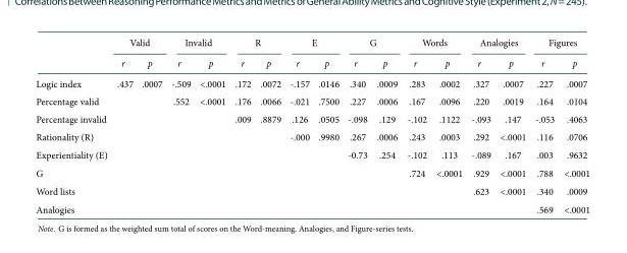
<table><thead><tr><td rowspan="2"></td><td colspan="2">Valid</td><td colspan="2">Invalid</td><td colspan="2">R</td><td colspan="2">E</td><td colspan="2">G</td><td colspan="2">Words</td><td colspan="2">Analogies</td><td colspan="2">Figures</td></tr><tr><td>r</td><td>p</td><td>r</td><td>p</td><td>r</td><td>p</td><td>r</td><td>p</td><td>r</td><td>p</td><td>r</td><td>p</td><td>r</td><td>p</td><td>r</td><td>p</td></tr></thead><tbody><tr><td>Logic index</td><td>.437</td><td>.0007</td><td>-.509</td><td>&lt;.0001</td><td>.172</td><td>.0072</td><td>-.157</td><td>.0146</td><td>.340</td><td>.0009</td><td>.283</td><td>.0002</td><td>.327</td><td>.0007</td><td>.227</td><td>.0007</td></tr><tr><td>Percentage valid</td><td></td><td></td><td>.552</td><td>&lt;.0001</td><td>.176</td><td>.0066</td><td>-.021</td><td>.7500</td><td>.227</td><td>.0006</td><td>.167</td><td>.0096</td><td>.220</td><td>.0019</td><td>.164</td><td>.0104</td></tr><tr><td>Percentage invalid</td><td></td><td></td><td></td><td></td><td>.009</td><td>.8879</td><td>.126</td><td>.0505</td><td>-.098</td><td>.129</td><td>-.102</td><td>.1122</td><td>-.093</td><td>.147</td><td>-.053</td><td>.4063</td></tr><tr><td>Rationality (R)</td><td></td><td></td><td></td><td></td><td></td><td></td><td>-.000</td><td>.9980</td><td>.267</td><td>.0006</td><td>.243</td><td>.0003</td><td>.292</td><td>&lt;.0001</td><td>.116</td><td>.0706</td></tr><tr><td>Experientiality (E)</td><td></td><td></td><td></td><td></td><td></td><td></td><td></td><td></td><td>-0.73</td><td>.254</td><td>-.102</td><td>.113</td><td>-.089</td><td>.167</td><td>.003</td><td>.9632</td></tr><tr><td>G</td><td></td><td></td><td></td><td></td><td></td><td></td><td></td><td></td><td></td><td></td><td>.724</td><td>&lt;.0001</td><td>.929</td><td>&lt;.0001</td><td>.788</td><td>&lt;.0001</td></tr><tr><td>Word lists</td><td></td><td></td><td></td><td></td><td></td><td></td><td></td><td></td><td></td><td></td><td></td><td></td><td>.623</td><td>&lt;.0001</td><td>.340</td><td>.0009</td></tr><tr><td>Analogies</td><td></td><td></td><td></td><td></td><td></td><td></td><td></td><td></td><td></td><td></td><td></td><td></td><td></td><td></td><td>.569</td><td>&lt;.0001</td></tr></tbody></table>